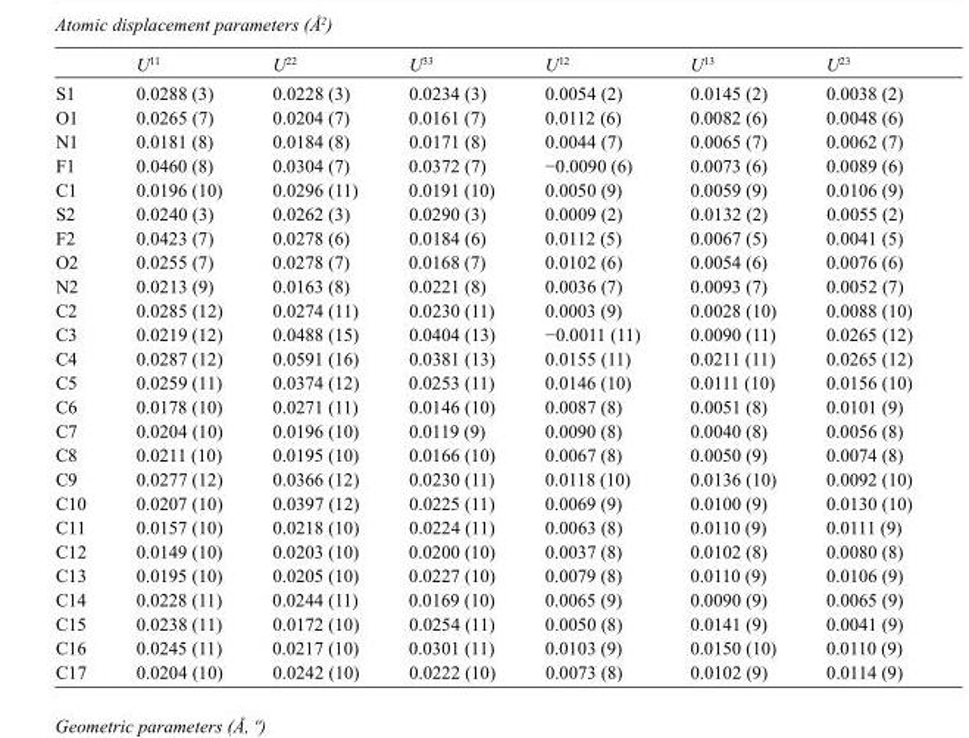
<table><thead><tr><td></td><td>U<sup>11</sup></td><td>U<sup>22</sup></td><td>U<sup>33</sup></td><td>U<sup>12</sup></td><td>U<sup>13</sup></td><td>U<sup>23</sup></td></tr></thead><tbody><tr><td>S1</td><td>0.0288 (3)</td><td>0.0228 (3)</td><td>0.0234 (3)</td><td>0.0054 (2)</td><td>0.0145 (2)</td><td>0.0038 (2)</td></tr><tr><td>O1</td><td>0.0265 (7)</td><td>0.0204 (7)</td><td>0.0161 (7)</td><td>0.0112 (6)</td><td>0.0082 (6)</td><td>0.0048 (6)</td></tr><tr><td>N1</td><td>0.0181 (8)</td><td>0.0184 (8)</td><td>0.0171 (8)</td><td>0.0044 (7)</td><td>0.0065 (7)</td><td>0.0062 (7)</td></tr><tr><td>F1</td><td>0.0460 (8)</td><td>0.0304 (7)</td><td>0.0372 (7)</td><td>−0.0090 (6)</td><td>0.0073 (6)</td><td>0.0089 (6)</td></tr><tr><td>C1</td><td>0.0196 (10)</td><td>0.0296 (11)</td><td>0.0191 (10)</td><td>0.0050 (9)</td><td>0.0059 (9)</td><td>0.0106 (9)</td></tr><tr><td>S2</td><td>0.0240 (3)</td><td>0.0262 (3)</td><td>0.0290 (3)</td><td>0.0009 (2)</td><td>0.0132 (2)</td><td>0.0055 (2)</td></tr><tr><td>F2</td><td>0.0423 (7)</td><td>0.0278 (6)</td><td>0.0184 (6)</td><td>0.0112 (5)</td><td>0.0067 (5)</td><td>0.0041 (5)</td></tr><tr><td>O2</td><td>0.0255 (7)</td><td>0.0278 (7)</td><td>0.0168 (7)</td><td>0.0102 (6)</td><td>0.0054 (6)</td><td>0.0076 (6)</td></tr><tr><td>N2</td><td>0.0213 (9)</td><td>0.0163 (8)</td><td>0.0221 (8)</td><td>0.0036 (7)</td><td>0.0093 (7)</td><td>0.0052 (7)</td></tr><tr><td>C2</td><td>0.0285 (12)</td><td>0.0274 (11)</td><td>0.0230 (11)</td><td>0.0003 (9)</td><td>0.0028 (10)</td><td>0.0088 (10)</td></tr><tr><td>C3</td><td>0.0219 (12)</td><td>0.0488 (15)</td><td>0.0404 (13)</td><td>−0.0011 (11)</td><td>0.0090 (11)</td><td>0.0265 (12)</td></tr><tr><td>C4</td><td>0.0287 (12)</td><td>0.0591 (16)</td><td>0.0381 (13)</td><td>0.0155 (11)</td><td>0.0211 (11)</td><td>0.0265 (12)</td></tr><tr><td>C5</td><td>0.0259 (11)</td><td>0.0374 (12)</td><td>0.0253 (11)</td><td>0.0146 (10)</td><td>0.0111 (10)</td><td>0.0156 (10)</td></tr><tr><td>C6</td><td>0.0178 (10)</td><td>0.0271 (11)</td><td>0.0146 (10)</td><td>0.0087 (8)</td><td>0.0051 (8)</td><td>0.0101 (9)</td></tr><tr><td>C7</td><td>0.0204 (10)</td><td>0.0196 (10)</td><td>0.0119 (9)</td><td>0.0090 (8)</td><td>0.0040 (8)</td><td>0.0056 (8)</td></tr><tr><td>C8</td><td>0.0211 (10)</td><td>0.0195 (10)</td><td>0.0166 (10)</td><td>0.0067 (8)</td><td>0.0050 (9)</td><td>0.0074 (8)</td></tr><tr><td>C9</td><td>0.0277 (12)</td><td>0.0366 (12)</td><td>0.0230 (11)</td><td>0.0118 (10)</td><td>0.0136 (10)</td><td>0.0092 (10)</td></tr><tr><td>C10</td><td>0.0207 (10)</td><td>0.0397 (12)</td><td>0.0225 (11)</td><td>0.0069 (9)</td><td>0.0100 (9)</td><td>0.0130 (10)</td></tr><tr><td>C11</td><td>0.0157 (10)</td><td>0.0218 (10)</td><td>0.0224 (11)</td><td>0.0063 (8)</td><td>0.0110 (9)</td><td>0.0111 (9)</td></tr><tr><td>C12</td><td>0.0149 (10)</td><td>0.0203 (10)</td><td>0.0200 (10)</td><td>0.0037 (8)</td><td>0.0102 (8)</td><td>0.0080 (8)</td></tr><tr><td>C13</td><td>0.0195 (10)</td><td>0.0205 (10)</td><td>0.0227 (10)</td><td>0.0079 (8)</td><td>0.0110 (9)</td><td>0.0106 (9)</td></tr><tr><td>C14</td><td>0.0228 (11)</td><td>0.0244 (11)</td><td>0.0169 (10)</td><td>0.0065 (9)</td><td>0.0090 (9)</td><td>0.0065 (9)</td></tr><tr><td>C15</td><td>0.0238 (11)</td><td>0.0172 (10)</td><td>0.0254 (11)</td><td>0.0050 (8)</td><td>0.0141 (9)</td><td>0.0041 (9)</td></tr><tr><td>C16</td><td>0.0245 (11)</td><td>0.0217 (10)</td><td>0.0301 (11)</td><td>0.0103 (9)</td><td>0.0150 (10)</td><td>0.0110 (9)</td></tr><tr><td>C17</td><td>0.0204 (10)</td><td>0.0242 (10)</td><td>0.0222 (10)</td><td>0.0073 (8)</td><td>0.0102 (9)</td><td>0.0114 (9)</td></tr></tbody></table>